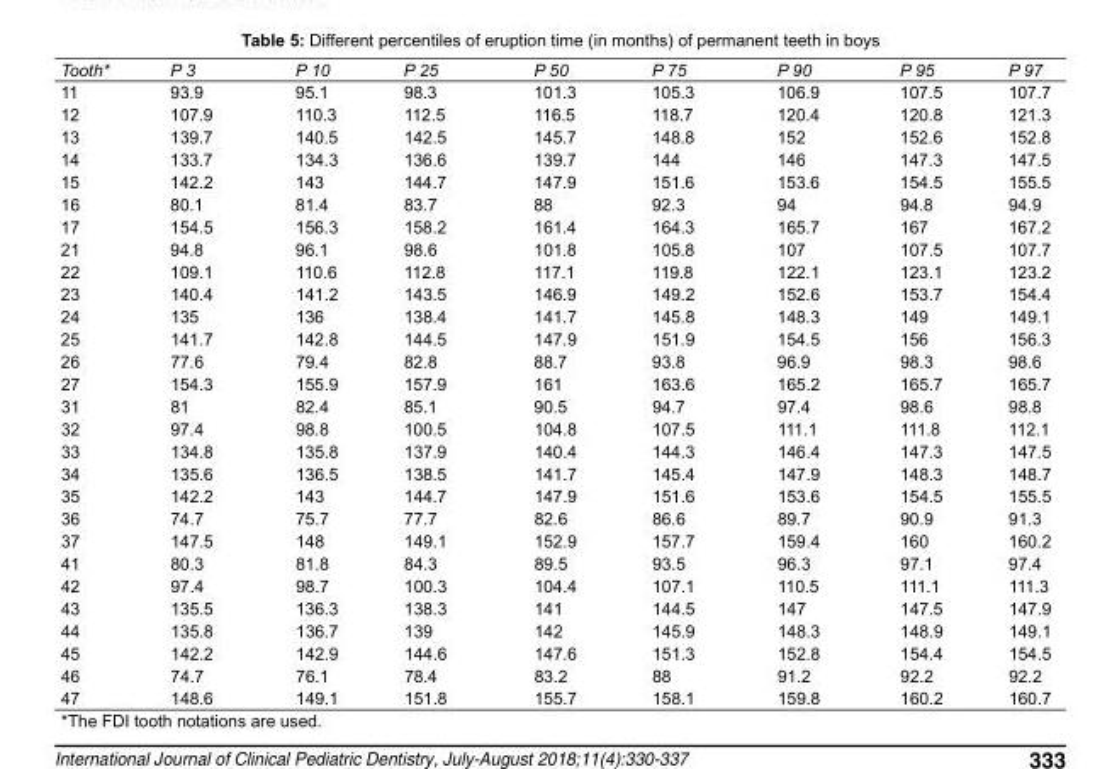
<table><tbody><tr><td>Tooth*</td><td>P 3</td><td>P 10</td><td>P 25</td><td>P 50</td><td>P 75</td><td>P 90</td><td>P 95</td><td>P 97</td></tr><tr><td>11</td><td>93.9</td><td>95.1</td><td>98.3</td><td>101.3</td><td>105.3</td><td>106.9</td><td>107.5</td><td>107.7</td></tr><tr><td>12</td><td>107.9</td><td>110.3</td><td>112.5</td><td>116.5</td><td>118.7</td><td>120.4</td><td>120.8</td><td>121.3</td></tr><tr><td>13</td><td>139.7</td><td>140.5</td><td>142.5</td><td>145.7</td><td>148.8</td><td>152</td><td>152.6</td><td>152.8</td></tr><tr><td>14</td><td>133.7</td><td>134.3</td><td>136.6</td><td>139.7</td><td>144</td><td>146</td><td>147.3</td><td>147.5</td></tr><tr><td>15</td><td>142.2</td><td>143</td><td>144.7</td><td>147.9</td><td>151.6</td><td>153.6</td><td>154.5</td><td>155.5</td></tr><tr><td>16</td><td>80.1</td><td>81.4</td><td>83.7</td><td>88</td><td>92.3</td><td>94</td><td>94.8</td><td>94.9</td></tr><tr><td>17</td><td>154.5</td><td>156.3</td><td>158.2</td><td>161.4</td><td>164.3</td><td>165.7</td><td>167</td><td>167.2</td></tr><tr><td>21</td><td>94.8</td><td>96.1</td><td>98.6</td><td>101.8</td><td>105.8</td><td>107</td><td>107.5</td><td>107.7</td></tr><tr><td>22</td><td>109.1</td><td>110.6</td><td>112.8</td><td>117.1</td><td>119.8</td><td>122.1</td><td>123.1</td><td>123.2</td></tr><tr><td>23</td><td>140.4</td><td>141.2</td><td>143.5</td><td>146.9</td><td>149.2</td><td>152.6</td><td>153.7</td><td>154.4</td></tr><tr><td>24</td><td>135</td><td>136</td><td>138.4</td><td>141.7</td><td>145.8</td><td>148.3</td><td>149</td><td>149.1</td></tr><tr><td>25</td><td>141.7</td><td>142.8</td><td>144.5</td><td>147.9</td><td>151.9</td><td>154.5</td><td>156</td><td>156.3</td></tr><tr><td>26</td><td>77.6</td><td>79.4</td><td>82.8</td><td>88.7</td><td>93.8</td><td>96.9</td><td>98.3</td><td>98.6</td></tr><tr><td>27</td><td>154.3</td><td>155.9</td><td>157.9</td><td>161</td><td>163.6</td><td>165.2</td><td>165.7</td><td>165.7</td></tr><tr><td>31</td><td>81</td><td>82.4</td><td>85.1</td><td>90.5</td><td>94.7</td><td>97.4</td><td>98.6</td><td>98.8</td></tr><tr><td>32</td><td>97.4</td><td>98.8</td><td>100.5</td><td>104.8</td><td>107.5</td><td>111.1</td><td>111.8</td><td>112.1</td></tr><tr><td>33</td><td>134.8</td><td>135.8</td><td>137.9</td><td>140.4</td><td>144.3</td><td>146.4</td><td>147.3</td><td>147.5</td></tr><tr><td>34</td><td>135.6</td><td>136.5</td><td>138.5</td><td>141.7</td><td>145.4</td><td>147.9</td><td>148.3</td><td>148.7</td></tr><tr><td>35</td><td>142.2</td><td>143</td><td>144.7</td><td>147.9</td><td>151.6</td><td>153.6</td><td>154.5</td><td>155.5</td></tr><tr><td>36</td><td>74.7</td><td>75.7</td><td>77.7</td><td>82.6</td><td>86.6</td><td>89.7</td><td>90.9</td><td>91.3</td></tr><tr><td>37</td><td>147.5</td><td>148</td><td>149.1</td><td>152.9</td><td>157.7</td><td>159.4</td><td>160</td><td>160.2</td></tr><tr><td>41</td><td>80.3</td><td>81.8</td><td>84.3</td><td>89.5</td><td>93.5</td><td>96.3</td><td>97.1</td><td>97.4</td></tr><tr><td>42</td><td>97.4</td><td>98.7</td><td>100.3</td><td>104.4</td><td>107.1</td><td>110.5</td><td>111.1</td><td>111.3</td></tr><tr><td>43</td><td>135.5</td><td>136.3</td><td>138.3</td><td>141</td><td>144.5</td><td>147</td><td>147.5</td><td>147.9</td></tr><tr><td>44</td><td>135.8</td><td>136.7</td><td>139</td><td>142</td><td>145.9</td><td>148.3</td><td>148.9</td><td>149.1</td></tr><tr><td>45</td><td>142.2</td><td>142.9</td><td>144.6</td><td>147.6</td><td>151.3</td><td>152.8</td><td>154.4</td><td>154.5</td></tr><tr><td>46</td><td>74.7</td><td>76.1</td><td>78.4</td><td>83.2</td><td>88</td><td>91.2</td><td>92.2</td><td>92.2</td></tr><tr><td>47</td><td>148.6</td><td>149.1</td><td>151.8</td><td>155.7</td><td>158.1</td><td>159.8</td><td>160.2</td><td>160.7</td></tr></tbody></table>